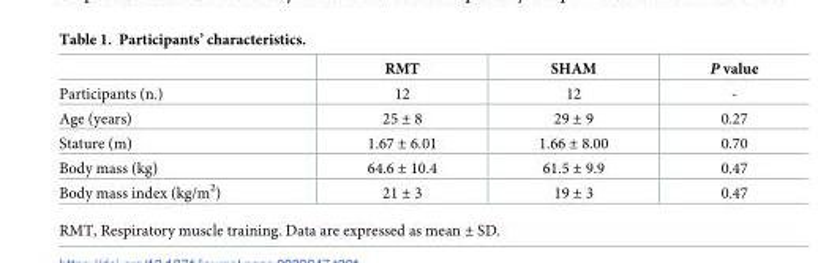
<table><thead><tr><td></td><td>RMT</td><td>SHAM</td><td>P value</td></tr></thead><tbody><tr><td>Participants (n.)</td><td>12</td><td>12</td><td>-</td></tr><tr><td>Age (years)</td><td>25 ± 8</td><td>29 ± 9</td><td>0.27</td></tr><tr><td>Stature (m)</td><td>1.67 ± 6.01</td><td>1.66 ± 8.00</td><td>0.70</td></tr><tr><td>Body mass (kg)</td><td>64.6 ± 10.4</td><td>61.5 ± 9.9</td><td>0.47</td></tr><tr><td>Body mass index (kg/m<sup>2</sup>)</td><td>21 ± 3</td><td>19 ± 3</td><td>0.47</td></tr></tbody></table>